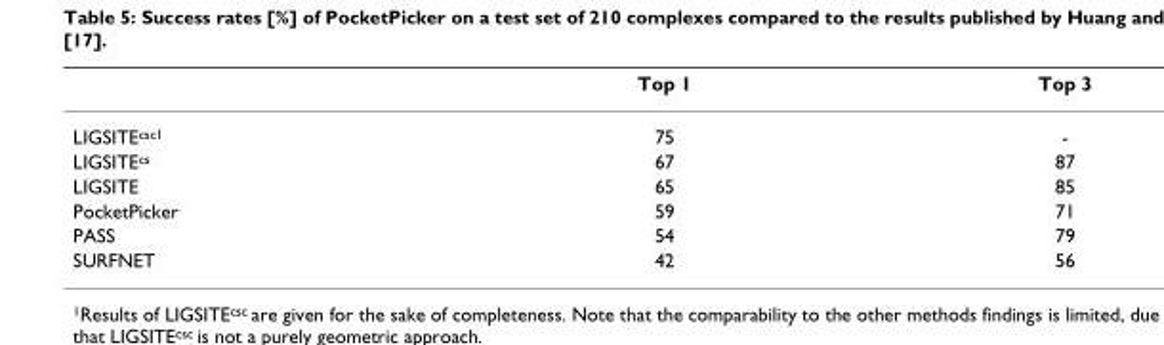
<table><thead><tr><td></td><td>Top 1</td><td>Top 3</td></tr></thead><tbody><tr><td>LIGSITE<sup>csc1</sup></td><td>75</td><td>-</td></tr><tr><td>LIGSITE<sup>cs</sup></td><td>67</td><td>87</td></tr><tr><td>LIGSITE</td><td>65</td><td>85</td></tr><tr><td>PocketPicker</td><td>59</td><td>71</td></tr><tr><td>PASS</td><td>54</td><td>79</td></tr><tr><td>SURFNET</td><td>42</td><td>56</td></tr></tbody></table>